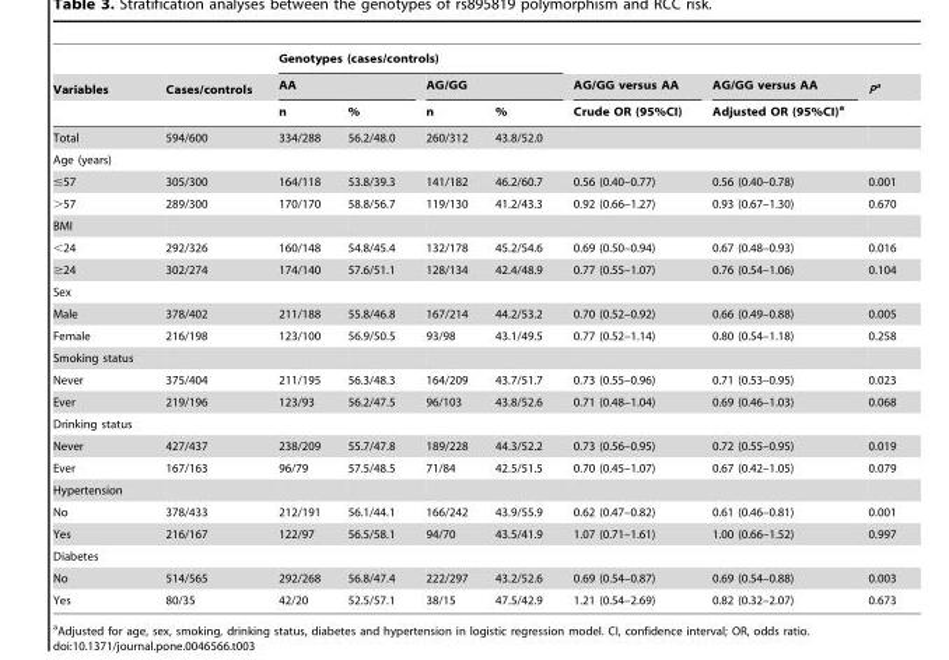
<table><thead><tr><td rowspan="3">Variables</td><td rowspan="3">Cases/controls</td><td colspan="4">Genotypes (cases/controls)</td><td rowspan="3">AG/GG versus AA Crude OR (95%CI)</td><td rowspan="3">AG/GG versus AA Adjusted OR (95%CI)<sup>a</sup></td><td rowspan="3">Pa</td></tr><tr><td colspan="2">AA</td><td colspan="2">AG/GG</td></tr><tr><td>n</td><td>%</td><td>n</td><td>%</td></tr></thead><tbody><tr><td>Total</td><td>594/600</td><td>334/288</td><td>56.2/48.0</td><td>260/312</td><td>43.8/52.0</td><td></td><td></td><td></td></tr><tr><td colspan="9">Age (years)</td></tr><tr><td>≤57</td><td>305/300</td><td>164/118</td><td>53.8/39.3</td><td>141/182</td><td>46.2/60.7</td><td>0.56 (0.40–0.77)</td><td>0.56 (0.40–0.78)</td><td>0.001</td></tr><tr><td>&gt;57</td><td>289/300</td><td>170/170</td><td>58.8/56.7</td><td>119/130</td><td>41.2/43.3</td><td>0.92 (0.66–1.27)</td><td>0.93 (0.67–1.30)</td><td>0.670</td></tr><tr><td colspan="9">BMI</td></tr><tr><td>&lt;24</td><td>292/326</td><td>160/148</td><td>54.8/45.4</td><td>132/178</td><td>45.2/54.6</td><td>0.69 (0.50–0.94)</td><td>0.67 (0.48–0.93)</td><td>0.016</td></tr><tr><td>≥24</td><td>302/274</td><td>174/140</td><td>57.6/51.1</td><td>128/134</td><td>42.4/48.9</td><td>0.77 (0.55–1.07)</td><td>0.76 (0.54–1.06)</td><td>0.104</td></tr><tr><td colspan="9">Sex</td></tr><tr><td>Male</td><td>378/402</td><td>211/188</td><td>55.8/46.8</td><td>167/214</td><td>44.2/53.2</td><td>0.70 (0.52–0.92)</td><td>0.66 (0.49–0.88)</td><td>0.005</td></tr><tr><td>Female</td><td>216/198</td><td>123/100</td><td>56.9/50.5</td><td>93/98</td><td>43.1/49.5</td><td>0.77 (0.52–1.14)</td><td>0.80 (0.54–1.18)</td><td>0.258</td></tr><tr><td colspan="9">Smoking status</td></tr><tr><td>Never</td><td>375/404</td><td>211/195</td><td>56.3/48.3</td><td>164/209</td><td>43.7/51.7</td><td>0.73 (0.55–0.96)</td><td>0.71 (0.53–0.95)</td><td>0.023</td></tr><tr><td>Ever</td><td>219/196</td><td>123/93</td><td>56.2/47.5</td><td>96/103</td><td>43.8/52.6</td><td>0.71 (0.48–1.04)</td><td>0.69 (0.46–1.03)</td><td>0.068</td></tr><tr><td colspan="9">Drinking status</td></tr><tr><td>Never</td><td>427/437</td><td>238/209</td><td>55.7/47.8</td><td>189/228</td><td>44.3/52.2</td><td>0.73 (0.56–0.95)</td><td>0.72 (0.55–0.95)</td><td>0.019</td></tr><tr><td>Ever</td><td>167/163</td><td>96/79</td><td>57.5/48.5</td><td>71/84</td><td>42.5/51.5</td><td>0.70 (0.45–1.07)</td><td>0.67 (0.42–1.05)</td><td>0.079</td></tr><tr><td colspan="9">Hypertension</td></tr><tr><td>No</td><td>378/433</td><td>212/191</td><td>56.1/44.1</td><td>166/242</td><td>43.9/55.9</td><td>0.62 (0.47–0.82)</td><td>0.61 (0.46–0.81)</td><td>0.001</td></tr><tr><td>Yes</td><td>216/167</td><td>122/97</td><td>56.5/58.1</td><td>94/70</td><td>43.5/41.9</td><td>1.07 (0.71–1.61)</td><td>1.00 (0.66–1.52)</td><td>0.997</td></tr><tr><td colspan="9">Diabetes</td></tr><tr><td>No</td><td>514/565</td><td>292/268</td><td>56.8/47.4</td><td>222/297</td><td>43.2/52.6</td><td>0.69 (0.54–0.87)</td><td>0.69 (0.54–0.88)</td><td>0.003</td></tr><tr><td>Yes</td><td>80/35</td><td>42/20</td><td>52.5/57.1</td><td>38/15</td><td>47.5/42.9</td><td>1.21 (0.54–2.69)</td><td>0.82 (0.32–2.07)</td><td>0.673</td></tr></tbody></table>